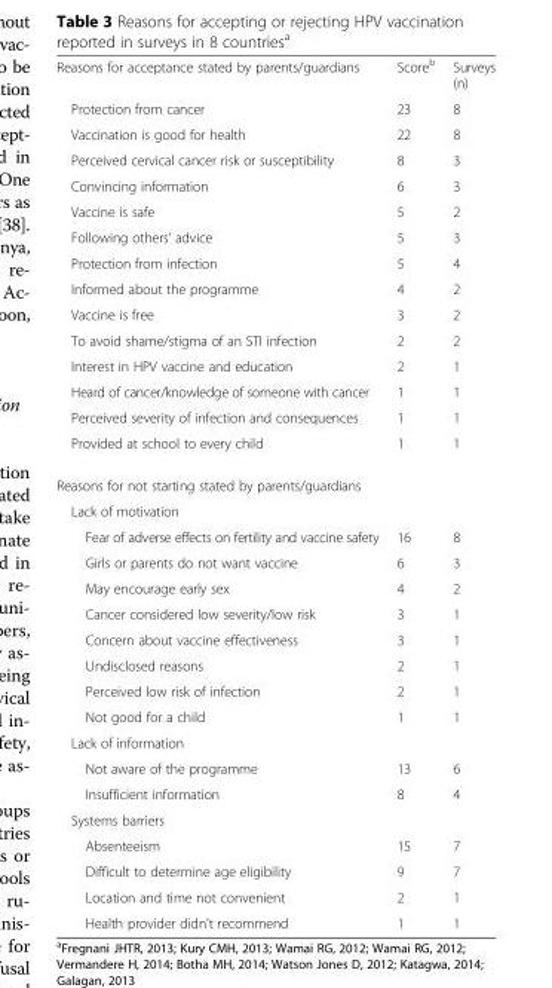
<table><tbody><tr><td>Reasons for acceptance stated by parents/guardians</td><td>Score<sup>b</sup></td><td>Surveys (n)</td></tr><tr><td>Protection from cancer</td><td>23</td><td>8</td></tr><tr><td>Vaccination is good for health</td><td>22</td><td>8</td></tr><tr><td>Perceived cervical cancer risk or susceptibility</td><td>8</td><td>3</td></tr><tr><td>Convincing information</td><td>6</td><td>3</td></tr><tr><td>Vaccine is safe</td><td>5</td><td>2</td></tr><tr><td>Following others’ advice</td><td>5</td><td>3</td></tr><tr><td>Protection from infection</td><td>5</td><td>4</td></tr><tr><td>Informed about the programme</td><td>4</td><td>2</td></tr><tr><td>Vaccine is free</td><td>3</td><td>2</td></tr><tr><td>To avoid shame/stigma of an STI infection</td><td>2</td><td>2</td></tr><tr><td>Interest in HPV vaccine and education</td><td>2</td><td>1</td></tr><tr><td>Heard of cancer/knowledge of someone with cancer</td><td>1</td><td>1</td></tr><tr><td>Perceived severity of infection and consequences</td><td>1</td><td>1</td></tr><tr><td>Provided at school to every child</td><td>1</td><td>1</td></tr><tr><td colspan="3">Reasons for not starting stated by parents/guardians</td></tr><tr><td colspan="3">Lack of motivation</td></tr><tr><td>Fear of adverse effects on fertility and vaccine safety</td><td>16</td><td>8</td></tr><tr><td>Girls or parents do not want vaccine</td><td>6</td><td>3</td></tr><tr><td>May encourage early sex</td><td>4</td><td>2</td></tr><tr><td>Cancer considered low severity/low risk</td><td>3</td><td>1</td></tr><tr><td>Concern about vaccine effectiveness</td><td>3</td><td>1</td></tr><tr><td>Undisclosed reasons</td><td>2</td><td>1</td></tr><tr><td>Perceived low risk of infection</td><td>2</td><td>1</td></tr><tr><td>Not good for a child</td><td>1</td><td>1</td></tr><tr><td colspan="3">Lack of information</td></tr><tr><td>Not aware of the programme</td><td>13</td><td>6</td></tr><tr><td>Insufficient information</td><td>8</td><td>4</td></tr><tr><td colspan="3">Systems barriers</td></tr><tr><td>Absenteeism</td><td>15</td><td>7</td></tr><tr><td>Difficult to determine age eligibility</td><td>9</td><td>7</td></tr><tr><td>Location and time not convenient</td><td>2</td><td>1</td></tr><tr><td>Health provider didn’t recommend</td><td>1</td><td>1</td></tr></tbody></table>